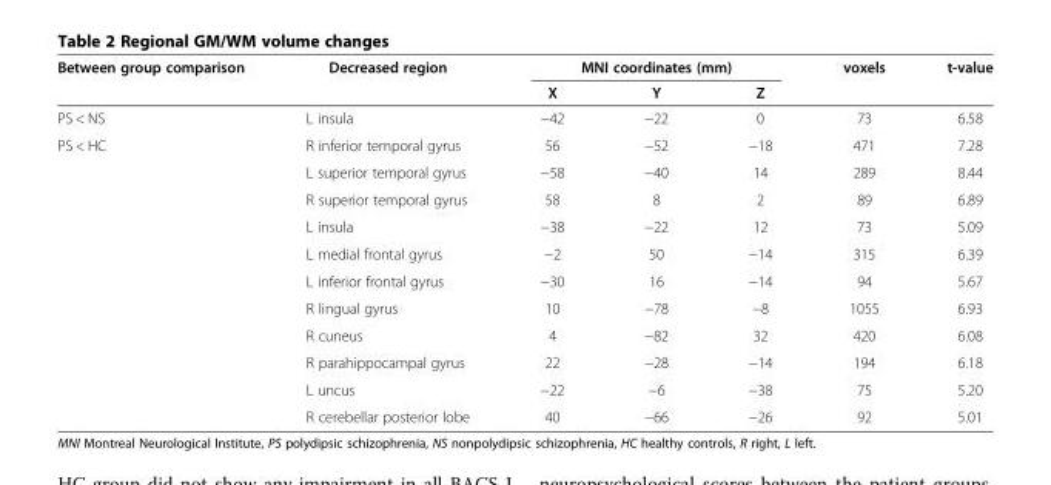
<table><thead><tr><td rowspan="2">Between group comparison</td><td rowspan="2">Decreased region</td><td colspan="3">MNI coordinates (mm)</td><td rowspan="2">voxels</td><td rowspan="2">t-value</td></tr><tr><td>X</td><td>Y</td><td>Z</td></tr></thead><tbody><tr><td>PS &lt; NS</td><td>L insula</td><td>−42</td><td>−22</td><td>0</td><td>73</td><td>6.58</td></tr><tr><td rowspan="11">PS &lt; HC</td><td>R inferior temporal gyrus</td><td>56</td><td>−52</td><td>−18</td><td>471</td><td>7.28</td></tr><tr><td>L superior temporal gyrus</td><td>−58</td><td>−40</td><td>14</td><td>289</td><td>8.44</td></tr><tr><td>R superior temporal gyrus</td><td>58</td><td>8</td><td>2</td><td>89</td><td>6.89</td></tr><tr><td>L insula</td><td>−38</td><td>−22</td><td>12</td><td>73</td><td>5.09</td></tr><tr><td>L medial frontal gyrus</td><td>−2</td><td>50</td><td>−14</td><td>315</td><td>6.39</td></tr><tr><td>L inferior frontal gyrus</td><td>−30</td><td>16</td><td>−14</td><td>94</td><td>5.67</td></tr><tr><td>R lingual gyrus</td><td>10</td><td>−78</td><td>−8</td><td>1055</td><td>6.93</td></tr><tr><td>R cuneus</td><td>4</td><td>−82</td><td>32</td><td>420</td><td>6.08</td></tr><tr><td>R parahippocampal gyrus</td><td>22</td><td>−28</td><td>−14</td><td>194</td><td>6.18</td></tr><tr><td>L uncus</td><td>−22</td><td>−6</td><td>−38</td><td>75</td><td>5.20</td></tr><tr><td>R cerebellar posterior lobe</td><td>40</td><td>−66</td><td>−26</td><td>92</td><td>5.01</td></tr></tbody></table>